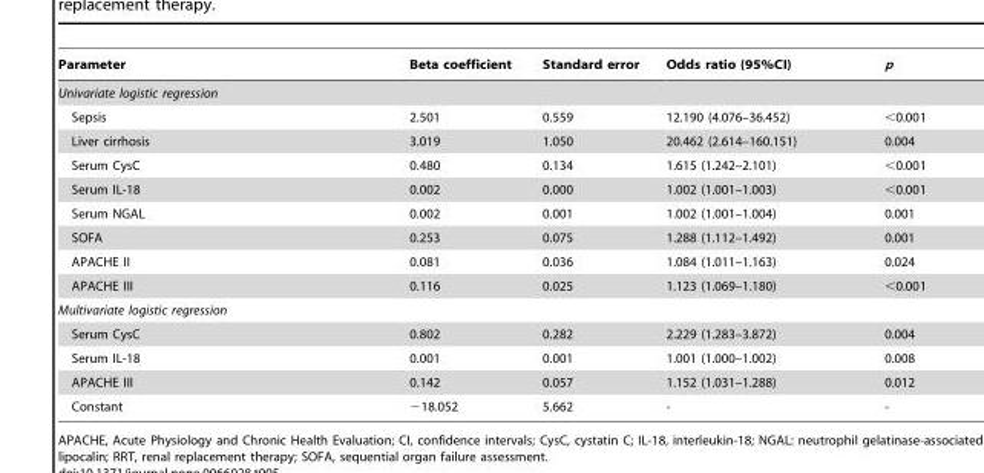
<table><thead><tr><td>Parameter</td><td>Beta coefficient</td><td>Standard error</td><td>Odds ratio (95%CI)</td><td>p</td></tr></thead><tbody><tr><td colspan="5">Univariate logistic regression</td></tr><tr><td>Sepsis</td><td>2.501</td><td>0.559</td><td>12.190 (4.076–36.452)</td><td>&lt;0.001</td></tr><tr><td>Liver cirrhosis</td><td>3.019</td><td>1.050</td><td>20.462 (2.614–160.151)</td><td>0.004</td></tr><tr><td>Serum CysC</td><td>0.480</td><td>0.134</td><td>1.615 (1.242–2.101)</td><td>&lt;0.001</td></tr><tr><td>Serum IL-18</td><td>0.002</td><td>0.000</td><td>1.002 (1.001–1.003)</td><td>&lt;0.001</td></tr><tr><td>Serum NGAL</td><td>0.002</td><td>0.001</td><td>1.002 (1.001–1.004)</td><td>0.001</td></tr><tr><td>SOFA</td><td>0.253</td><td>0.075</td><td>1.288 (1.112–1.492)</td><td>0.001</td></tr><tr><td>APACHE II</td><td>0.081</td><td>0.036</td><td>1.084 (1.011–1.163)</td><td>0.024</td></tr><tr><td>APACHE III</td><td>0.116</td><td>0.025</td><td>1.123 (1.069–1.180)</td><td>&lt;0.001</td></tr><tr><td colspan="5">Multivariate logistic regression</td></tr><tr><td>Serum CysC</td><td>0.802</td><td>0.282</td><td>2.229 (1.283–3.872)</td><td>0.004</td></tr><tr><td>Serum IL-18</td><td>0.001</td><td>0.001</td><td>1.001 (1.000–1.002)</td><td>0.008</td></tr><tr><td>APACHE III</td><td>0.142</td><td>0.057</td><td>1.152 (1.031–1.288)</td><td>0.012</td></tr><tr><td>Constant</td><td>−18.052</td><td>5.662</td><td>-</td><td>-</td></tr></tbody></table>